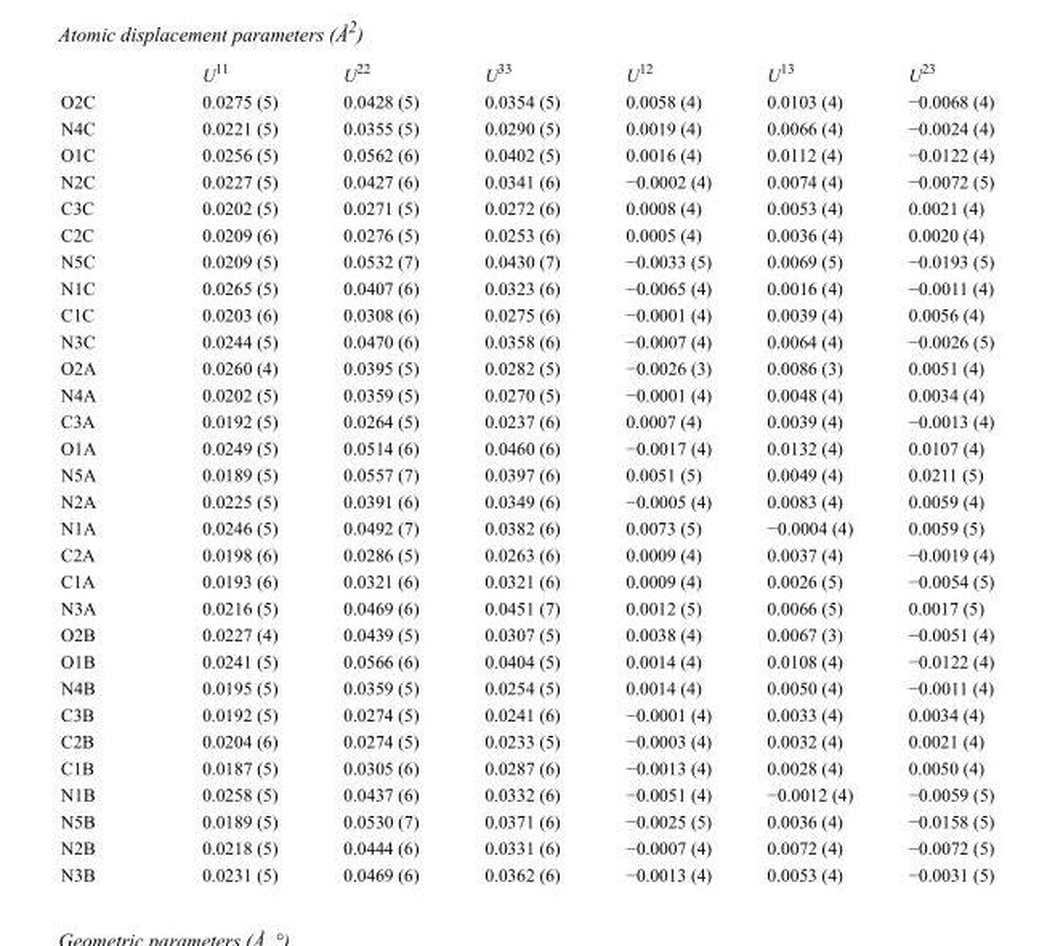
<table><thead><tr><td></td><td>U<sup>11</sup></td><td>U<sup>22</sup></td><td>U<sup>33</sup></td><td>U<sup>12</sup></td><td>U<sup>13</sup></td><td>U<sup>23</sup></td></tr></thead><tbody><tr><td>O2C</td><td>0.0275 (5)</td><td>0.0428 (5)</td><td>0.0354 (5)</td><td>0.0058 (4)</td><td>0.0103 (4)</td><td>−0.0068 (4)</td></tr><tr><td>N4C</td><td>0.0221 (5)</td><td>0.0355 (5)</td><td>0.0290 (5)</td><td>0.0019 (4)</td><td>0.0066 (4)</td><td>−0.0024 (4)</td></tr><tr><td>O1C</td><td>0.0256 (5)</td><td>0.0562 (6)</td><td>0.0402 (5)</td><td>0.0016 (4)</td><td>0.0112 (4)</td><td>−0.0122 (4)</td></tr><tr><td>N2C</td><td>0.0227 (5)</td><td>0.0427 (6)</td><td>0.0341 (6)</td><td>−0.0002 (4)</td><td>0.0074 (4)</td><td>−0.0072 (5)</td></tr><tr><td>C3C</td><td>0.0202 (5)</td><td>0.0271 (5)</td><td>0.0272 (6)</td><td>0.0008 (4)</td><td>0.0053 (4)</td><td>0.0021 (4)</td></tr><tr><td>C2C</td><td>0.0209 (6)</td><td>0.0276 (5)</td><td>0.0253 (6)</td><td>0.0005 (4)</td><td>0.0036 (4)</td><td>0.0020 (4)</td></tr><tr><td>N5C</td><td>0.0209 (5)</td><td>0.0532 (7)</td><td>0.0430 (7)</td><td>−0.0033 (5)</td><td>0.0069 (5)</td><td>−0.0193 (5)</td></tr><tr><td>N1C</td><td>0.0265 (5)</td><td>0.0407 (6)</td><td>0.0323 (6)</td><td>−0.0065 (4)</td><td>0.0016 (4)</td><td>−0.0011 (4)</td></tr><tr><td>C1C</td><td>0.0203 (6)</td><td>0.0308 (6)</td><td>0.0275 (6)</td><td>−0.0001 (4)</td><td>0.0039 (4)</td><td>0.0056 (4)</td></tr><tr><td>N3C</td><td>0.0244 (5)</td><td>0.0470 (6)</td><td>0.0358 (6)</td><td>−0.0007 (4)</td><td>0.0064 (4)</td><td>−0.0026 (5)</td></tr><tr><td>O2A</td><td>0.0260 (4)</td><td>0.0395 (5)</td><td>0.0282 (5)</td><td>−0.0026 (3)</td><td>0.0086 (3)</td><td>0.0051 (4)</td></tr><tr><td>N4A</td><td>0.0202 (5)</td><td>0.0359 (5)</td><td>0.0270 (5)</td><td>−0.0001 (4)</td><td>0.0048 (4)</td><td>0.0034 (4)</td></tr><tr><td>C3A</td><td>0.0192 (5)</td><td>0.0264 (5)</td><td>0.0237 (6)</td><td>0.0007 (4)</td><td>0.0039 (4)</td><td>−0.0013 (4)</td></tr><tr><td>O1A</td><td>0.0249 (5)</td><td>0.0514 (6)</td><td>0.0460 (6)</td><td>−0.0017 (4)</td><td>0.0132 (4)</td><td>0.0107 (4)</td></tr><tr><td>N5A</td><td>0.0189 (5)</td><td>0.0557 (7)</td><td>0.0397 (6)</td><td>0.0051 (5)</td><td>0.0049 (4)</td><td>0.0211 (5)</td></tr><tr><td>N2A</td><td>0.0225 (5)</td><td>0.0391 (6)</td><td>0.0349 (6)</td><td>−0.0005 (4)</td><td>0.0083 (4)</td><td>0.0059 (4)</td></tr><tr><td>N1A</td><td>0.0246 (5)</td><td>0.0492 (7)</td><td>0.0382 (6)</td><td>0.0073 (5)</td><td>−0.0004 (4)</td><td>0.0059 (5)</td></tr><tr><td>C2A</td><td>0.0198 (6)</td><td>0.0286 (5)</td><td>0.0263 (6)</td><td>0.0009 (4)</td><td>0.0037 (4)</td><td>−0.0019 (4)</td></tr><tr><td>C1A</td><td>0.0193 (6)</td><td>0.0321 (6)</td><td>0.0321 (6)</td><td>0.0009 (4)</td><td>0.0026 (5)</td><td>−0.0054 (5)</td></tr><tr><td>N3A</td><td>0.0216 (5)</td><td>0.0469 (6)</td><td>0.0451 (7)</td><td>0.0012 (5)</td><td>0.0066 (5)</td><td>0.0017 (5)</td></tr><tr><td>O2B</td><td>0.0227 (4)</td><td>0.0439 (5)</td><td>0.0307 (5)</td><td>0.0038 (4)</td><td>0.0067 (3)</td><td>−0.0051 (4)</td></tr><tr><td>O1B</td><td>0.0241 (5)</td><td>0.0566 (6)</td><td>0.0404 (5)</td><td>0.0014 (4)</td><td>0.0108 (4)</td><td>−0.0122 (4)</td></tr><tr><td>N4B</td><td>0.0195 (5)</td><td>0.0359 (5)</td><td>0.0254 (5)</td><td>0.0014 (4)</td><td>0.0050 (4)</td><td>−0.0011 (4)</td></tr><tr><td>C3B</td><td>0.0192 (5)</td><td>0.0274 (5)</td><td>0.0241 (6)</td><td>−0.0001 (4)</td><td>0.0033 (4)</td><td>0.0034 (4)</td></tr><tr><td>C2B</td><td>0.0204 (6)</td><td>0.0274 (5)</td><td>0.0233 (5)</td><td>−0.0003 (4)</td><td>0.0032 (4)</td><td>0.0021 (4)</td></tr><tr><td>C1B</td><td>0.0187 (5)</td><td>0.0305 (6)</td><td>0.0287 (6)</td><td>−0.0013 (4)</td><td>0.0028 (4)</td><td>0.0050 (4)</td></tr><tr><td>N1B</td><td>0.0258 (5)</td><td>0.0437 (6)</td><td>0.0332 (6)</td><td>−0.0051 (4)</td><td>−0.0012 (4)</td><td>−0.0059 (5)</td></tr><tr><td>N5B</td><td>0.0189 (5)</td><td>0.0530 (7)</td><td>0.0371 (6)</td><td>−0.0025 (5)</td><td>0.0036 (4)</td><td>−0.0158 (5)</td></tr><tr><td>N2B</td><td>0.0218 (5)</td><td>0.0444 (6)</td><td>0.0331 (6)</td><td>−0.0007 (4)</td><td>0.0072 (4)</td><td>−0.0072 (5)</td></tr><tr><td>N3B</td><td>0.0231 (5)</td><td>0.0469 (6)</td><td>0.0362 (6)</td><td>−0.0013 (4)</td><td>0.0053 (4)</td><td>−0.0031 (5)</td></tr></tbody></table>